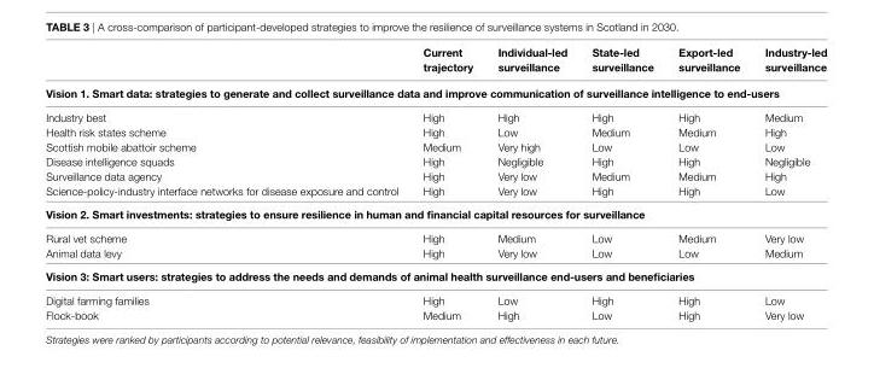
<table><thead><tr><td></td><td>current trajectory</td><td>individual-led surveillance</td><td>state-led surveillance</td><td>export-led surveillance</td><td>industry-led surveillance</td></tr></thead><tbody><tr><td colspan="6">Vision 1. smart data: strategies to generate and collect surveillance data and improve communication of surveillance intelligence to end-users</td></tr><tr><td>Industry best</td><td>High</td><td>High</td><td>High</td><td>High</td><td>Medium</td></tr><tr><td>Health risk states scheme</td><td>High</td><td>Low</td><td>Medium</td><td>Medium</td><td>High</td></tr><tr><td>Scottish mobile abattoir scheme</td><td>Medium</td><td>Very high</td><td>Low</td><td>Low</td><td>Low</td></tr><tr><td>Disease intelligence squads</td><td>High</td><td>Negligible</td><td>High</td><td>High</td><td>Negligible</td></tr><tr><td>Surveillance data agency</td><td>High</td><td>Very low</td><td>Medium</td><td>Medium</td><td>High</td></tr><tr><td>Science-policy-industry interface networks for disease exposure and control</td><td>High</td><td>Very low</td><td>High</td><td>High</td><td>Low</td></tr><tr><td colspan="6">Vision 2. smart investments: strategies to ensure resilience in human and financial capital resources for surveillance</td></tr><tr><td>Rural vet scheme</td><td>High</td><td>Medium</td><td>Low</td><td>Medium</td><td>Very low</td></tr><tr><td>Animal data levy</td><td>High</td><td>Very low</td><td>Low</td><td>Low</td><td>Medium</td></tr><tr><td colspan="6">Vision 3: smart users: strategies to address the needs and demands of animal health surveillance end-users and beneficiaries</td></tr><tr><td>Digital farming families</td><td>High</td><td>Low</td><td>High</td><td>High</td><td>Low</td></tr><tr><td>Flock-book</td><td>Medium</td><td>High</td><td>Low</td><td>High</td><td>Very low</td></tr></tbody></table>